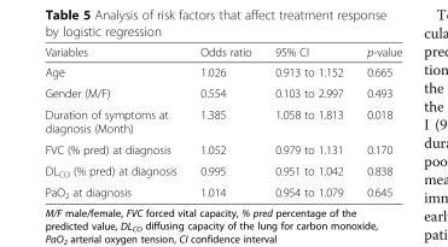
<table><thead><tr><td>Variables</td><td>Odds ratio</td><td>95% CI</td><td>p-value</td></tr></thead><tbody><tr><td>Age</td><td>1.026</td><td>0.913 to 1.152</td><td>0.665</td></tr><tr><td>Gender (M/F)</td><td>0.554</td><td>0.103 to 2.997</td><td>0.493</td></tr><tr><td>Duration of symptoms at diagnosis (Month)</td><td>1.385</td><td>1.058 to 1.813</td><td>0.018</td></tr><tr><td>FVC (% pred) at diagnosis</td><td>1.052</td><td>0.979 to 1.131</td><td>0.170</td></tr><tr><td>DL<sub>CO</sub> (% pred) at diagnosis</td><td>0.995</td><td>0.951 to 1.042</td><td>0.838</td></tr><tr><td>PaO<sub>2</sub> at diagnosis</td><td>1.014</td><td>0.954 to 1.079</td><td>0.645</td></tr></tbody></table>